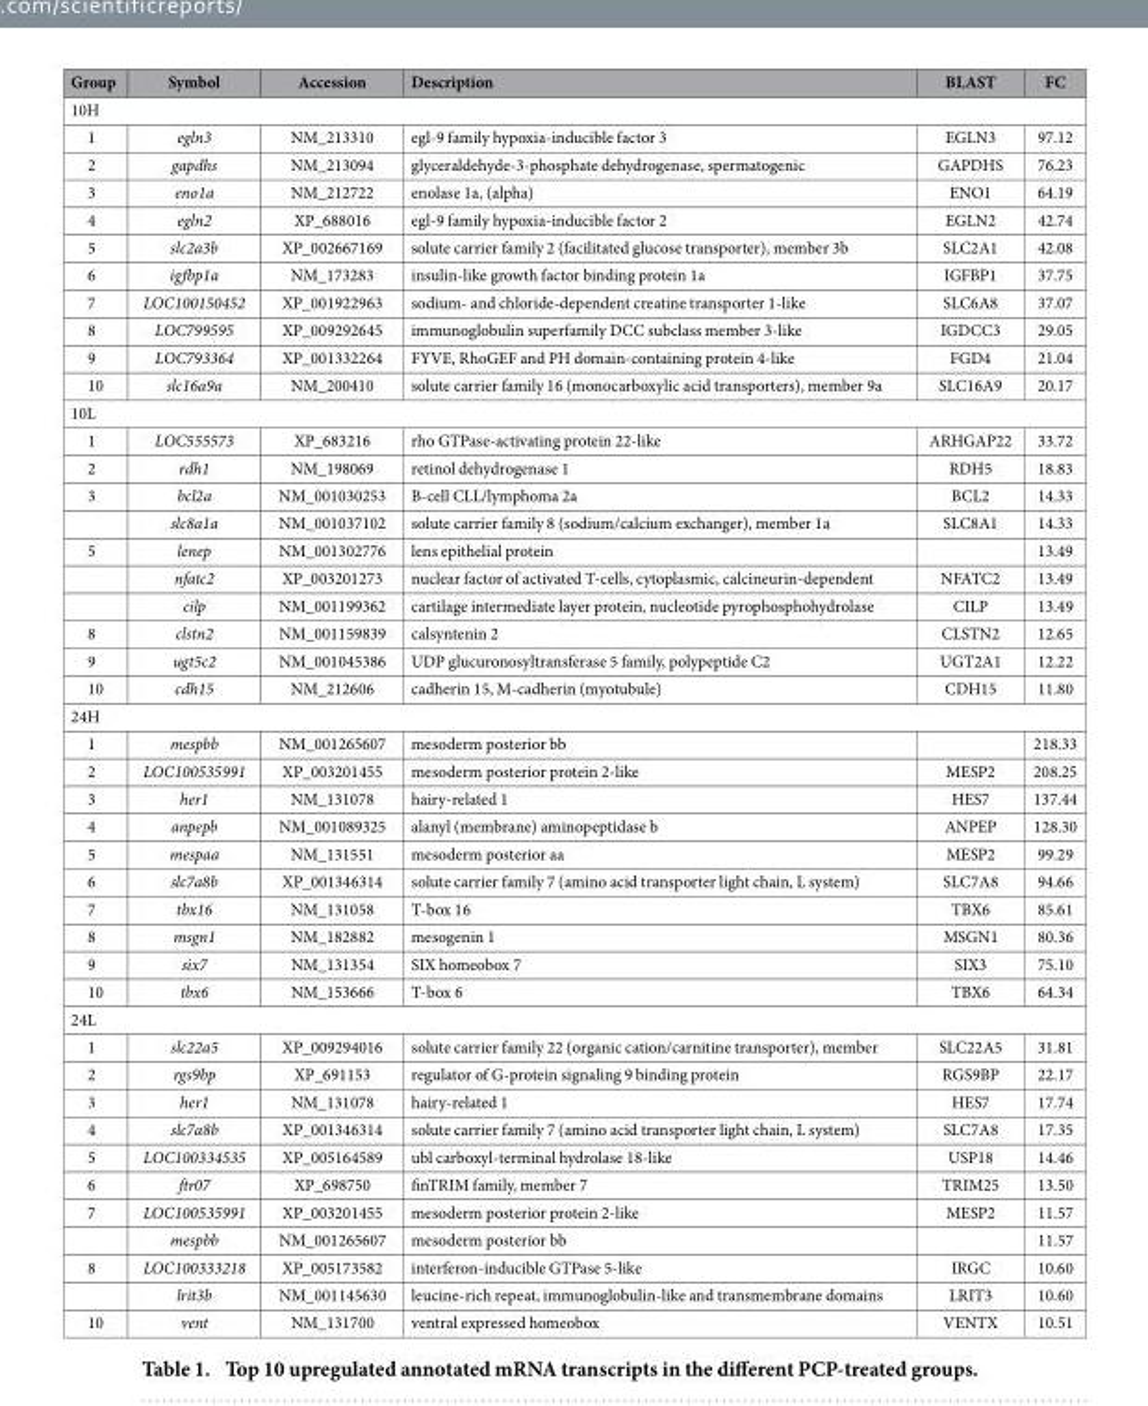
<table><thead><tr><td>Group</td><td>Symbol</td><td>Accession</td><td>Description</td><td>BLAST</td><td>FC</td></tr></thead><tbody><tr><td colspan="6">10H</td></tr><tr><td>1</td><td>egln3</td><td>NM_213310</td><td>egl-9 family hypoxia-inducible factor 3</td><td>EGLN3</td><td>97.12</td></tr><tr><td>2</td><td>gapdhs</td><td>NM_213094</td><td>glyceraldehyde-3-phosphate dehydrogenase, spermatogenic</td><td>GAPDHS</td><td>76.23</td></tr><tr><td>3</td><td>eno1a</td><td>NM_212722</td><td>enolase 1a, (alpha)</td><td>ENO1</td><td>64.19</td></tr><tr><td>4</td><td>egln2</td><td>XP_688016</td><td>egl-9 family hypoxia-inducible factor 2</td><td>EGLN2</td><td>42.74</td></tr><tr><td>5</td><td>slc2a3b</td><td>XP_002667169</td><td>solute carrier family 2 (facilitated glucose transporter), member 3b</td><td>SLC2A1</td><td>42.08</td></tr><tr><td>6</td><td>igfbp1a</td><td>NM_173283</td><td>insulin-like growth factor binding protein 1a</td><td>IGFBP1</td><td>37.75</td></tr><tr><td>7</td><td>LOC100150452</td><td>XP_001922963</td><td>sodium- and chloride-dependent creatine transporter 1-like</td><td>SLC6A8</td><td>37.07</td></tr><tr><td>8</td><td>LOC799595</td><td>XP_009292645</td><td>immunoglobulin superfamily DCC subclass member 3-like</td><td>IGDCC3</td><td>29.05</td></tr><tr><td>9</td><td>LOC793364</td><td>XP_001332264</td><td>FYVE, RhoGEF and PH domain-containing protein 4-like</td><td>FGD4</td><td>21.04</td></tr><tr><td>10</td><td>slc16a9a</td><td>NM_200410</td><td>solute carrier family 16 (monocarboxylic acid transporters), member 9a</td><td>SLC16A9</td><td>20.17</td></tr><tr><td colspan="6">10L</td></tr><tr><td>1</td><td>LOC555573</td><td>XP_683216</td><td>rho GTPase-activating protein 22-like</td><td>ARHGAP22</td><td>33.72</td></tr><tr><td>2</td><td>rdh1</td><td>NM_198069</td><td>retinol dehydrogenase 1</td><td>RDH5</td><td>18.83</td></tr><tr><td rowspan="2">3</td><td>bcl2a</td><td>NM_001030253</td><td>B-cell CLL/lymphoma 2a</td><td>BCL2</td><td>14.33</td></tr><tr><td>slc8a1a</td><td>NM_001037102</td><td>solute carrier family 8 (sodium/calcium exchanger), member 1a</td><td>SLC8A1</td><td>14.33</td></tr><tr><td rowspan="3">5</td><td>lenep</td><td>NM_001302776</td><td>lens epithelial protein</td><td></td><td>13.49</td></tr><tr><td>nfatc2</td><td>XP_003201273</td><td>nuclear factor of activated T-cells, cytoplasmic, calcineurin-dependent</td><td>NFATC2</td><td>13.49</td></tr><tr><td>cilp</td><td>NM_001199362</td><td>cartilage intermediate layer protein, nucleotide pyrophosphohydrolase</td><td>CILP</td><td>13.49</td></tr><tr><td>8</td><td>clstn2</td><td>NM_001159839</td><td>calsyntenin 2</td><td>CLSTN2</td><td>12.65</td></tr><tr><td>9</td><td>ugt5c2</td><td>NM_001045386</td><td>UDP glucuronosyltransferase 5 family, polypeptide C2</td><td>UGT2A1</td><td>12.22</td></tr><tr><td>10</td><td>cdh15</td><td>NM_212606</td><td>cadherin 15, M-cadherin (myotubule)</td><td>CDH15</td><td>11.80</td></tr><tr><td colspan="6">24H</td></tr><tr><td>1</td><td>mespbb</td><td>NM_001265607</td><td>mesoderm posterior bb</td><td></td><td>218.33</td></tr><tr><td>2</td><td>LOC100535991</td><td>XP_003201455</td><td>mesoderm posterior protein 2-like</td><td>MESP2</td><td>208.25</td></tr><tr><td>3</td><td>her1</td><td>NM_131078</td><td>hairy-related 1</td><td>HES7</td><td>137.44</td></tr><tr><td>4</td><td>anpepb</td><td>NM_001089325</td><td>alanyl (membrane) aminopeptidase b</td><td>ANPEP</td><td>128.30</td></tr><tr><td>5</td><td>mespaa</td><td>NM_131551</td><td>mesoderm posterior aa</td><td>MESP2</td><td>99.29</td></tr><tr><td>6</td><td>slc7a8b</td><td>XP_001346314</td><td>solute carrier family 7 (amino acid transporter light chain, L system)</td><td>SLC7A8</td><td>94.66</td></tr><tr><td>7</td><td>tbx16</td><td>NM_131058</td><td>T-box 16</td><td>TBX6</td><td>85.61</td></tr><tr><td>8</td><td>msgn1</td><td>NM_182882</td><td>mesogenin 1</td><td>MSGN1</td><td>80.36</td></tr><tr><td>9</td><td>six7</td><td>NM_131354</td><td>SIX homeobox 7</td><td>SIX3</td><td>75.10</td></tr><tr><td>10</td><td>tbx6</td><td>NM_153666</td><td>T-box 6</td><td>TBX6</td><td>64.34</td></tr><tr><td colspan="6">24L</td></tr><tr><td>1</td><td>slc22a5</td><td>XP_009294016</td><td>solute carrier family 22 (organic cation/carnitine transporter), member</td><td>SLC22A5</td><td>31.81</td></tr><tr><td>2</td><td>rgs9bp</td><td>XP_691153</td><td>regulator of G-protein signaling 9 binding protein</td><td>RGS9BP</td><td>22.17</td></tr><tr><td>3</td><td>her1</td><td>NM_131078</td><td>hairy-related 1</td><td>HES7</td><td>17.74</td></tr><tr><td>4</td><td>slc7a8b</td><td>XP_001346314</td><td>solute carrier family 7 (amino acid transporter light chain, L system)</td><td>SLC7A8</td><td>17.35</td></tr><tr><td>5</td><td>LOC100334535</td><td>XP_005164589</td><td>ubl carboxyl-terminal hydrolase 18-like</td><td>USP18</td><td>14.46</td></tr><tr><td>6</td><td>ftr07</td><td>XP_698750</td><td>finTRIM family, member 7</td><td>TRIM25</td><td>13.50</td></tr><tr><td rowspan="2">7</td><td>LOC100535991</td><td>XP_003201455</td><td>mesoderm posterior protein 2-like</td><td>MESP2</td><td>11.57</td></tr><tr><td>mespbb</td><td>NM_001265607</td><td>mesoderm posterior bb</td><td></td><td>11.57</td></tr><tr><td rowspan="2">8</td><td>LOC100333218</td><td>XP_005173582</td><td>interferon-inducible GTPase 5-like</td><td>IRGC</td><td>10.60</td></tr><tr><td>lrit3b</td><td>NM_001145630</td><td>leucine-rich repeat, immunoglobulin-like and transmembrane domains</td><td>LRIT3</td><td>10.60</td></tr><tr><td>10</td><td>vent</td><td>NM_131700</td><td>ventral expressed homeobox</td><td>VENTX</td><td>10.51</td></tr></tbody></table>